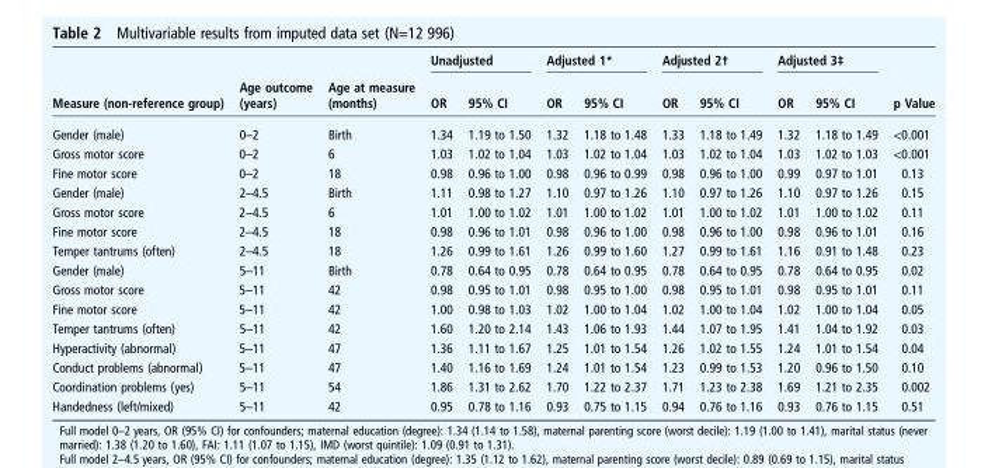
<table><thead><tr><td rowspan="2">Measure (non-reference group)</td><td rowspan="2">Age outcome (years)</td><td rowspan="2">Age at measure (months)</td><td colspan="2">Unadjusted</td><td colspan="2">Adjusted 1*</td><td colspan="2">Adjusted 2†</td><td colspan="2">Adjusted 3‡</td><td rowspan="2">p Value</td></tr><tr><td>OR</td><td>95% CI</td><td>OR</td><td>95% CI</td><td>OR</td><td>95% CI</td><td>OR</td><td>95% CI</td></tr></thead><tbody><tr><td>Gender (male)</td><td>0–2</td><td>Birth</td><td>1.34</td><td>1.19 to 1.50</td><td>1.32</td><td>1.18 to 1.48</td><td>1.33</td><td>1.18 to 1.49</td><td>1.32</td><td>1.18 to 1.49</td><td>&lt;0.001</td></tr><tr><td>Gross motor score</td><td>0–2</td><td>6</td><td>1.03</td><td>1.02 to 1.04</td><td>1.03</td><td>1.02 to 1.04</td><td>1.03</td><td>1.02 to 1.04</td><td>1.03</td><td>1.02 to 1.03</td><td>&lt;0.001</td></tr><tr><td>Fine motor score</td><td>0–2</td><td>18</td><td>0.98</td><td>0.96 to 1.00</td><td>0.98</td><td>0.96 to 0.99</td><td>0.98</td><td>0.96 to 1.00</td><td>0.99</td><td>0.97 to 1.01</td><td>0.13</td></tr><tr><td>Gender (male)</td><td>2–4.5</td><td>Birth</td><td>1.11</td><td>0.98 to 1.27</td><td>1.10</td><td>0.97 to 1.26</td><td>1.10</td><td>0.97 to 1.26</td><td>1.10</td><td>0.97 to 1.26</td><td>0.15</td></tr><tr><td>Gross motor score</td><td>2–4.5</td><td>6</td><td>1.01</td><td>1.00 to 1.02</td><td>1.01</td><td>1.00 to 1.02</td><td>1.01</td><td>1.00 to 1.02</td><td>1.01</td><td>1.00 to 1.02</td><td>0.11</td></tr><tr><td>Fine motor score</td><td>2–4.5</td><td>18</td><td>0.98</td><td>0.96 to 1.01</td><td>0.98</td><td>0.96 to 1.00</td><td>0.98</td><td>0.96 to 1.00</td><td>0.98</td><td>0.96 to 1.01</td><td>0.16</td></tr><tr><td>Temper tantrums (often)</td><td>2–4.5</td><td>18</td><td>1.26</td><td>0.99 to 1.61</td><td>1.26</td><td>0.99 to 1.60</td><td>1.27</td><td>0.99 to 1.61</td><td>1.16</td><td>0.91 to 1.48</td><td>0.23</td></tr><tr><td>Gender (male)</td><td>5–11</td><td>Birth</td><td>0.78</td><td>0.64 to 0.95</td><td>0.78</td><td>0.64 to 0.95</td><td>0.78</td><td>0.64 to 0.95</td><td>0.78</td><td>0.64 to 0.95</td><td>0.02</td></tr><tr><td>Gross motor score</td><td>5–11</td><td>42</td><td>0.98</td><td>0.95 to 1.01</td><td>0.98</td><td>0.95 to 1.00</td><td>0.98</td><td>0.95 to 1.01</td><td>0.98</td><td>0.95 to 1.01</td><td>0.11</td></tr><tr><td>Fine motor score</td><td>5–11</td><td>42</td><td>1.00</td><td>0.98 to 1.03</td><td>1.02</td><td>1.00 to 1.04</td><td>1.02</td><td>1.00 to 1.04</td><td>1.02</td><td>1.00 to 1.04</td><td>0.05</td></tr><tr><td>Temper tantrums (often)</td><td>5–11</td><td>42</td><td>1.60</td><td>1.20 to 2.14</td><td>1.43</td><td>1.06 to 1.93</td><td>1.44</td><td>1.07 to 1.95</td><td>1.41</td><td>1.04 to 1.92</td><td>0.03</td></tr><tr><td>Hyperactivity (abnormal)</td><td>5–11</td><td>47</td><td>1.36</td><td>1.11 to 1.67</td><td>1.25</td><td>1.01 to 1.54</td><td>1.26</td><td>1.02 to 1.55</td><td>1.24</td><td>1.01 to 1.54</td><td>0.04</td></tr><tr><td>Conduct problems (abnormal)</td><td>5–11</td><td>47</td><td>1.40</td><td>1.16 to 1.69</td><td>1.24</td><td>1.01 to 1.54</td><td>1.23</td><td>0.99 to 1.53</td><td>1.20</td><td>0.96 to 1.50</td><td>0.10</td></tr><tr><td>Coordination problems (yes)</td><td>5–11</td><td>54</td><td>1.86</td><td>1.31 to 2.62</td><td>1.70</td><td>1.22 to 2.37</td><td>1.71</td><td>1.23 to 2.38</td><td>1.69</td><td>1.21 to 2.35</td><td>0.002</td></tr><tr><td>Handedness (left/mixed)</td><td>5–11</td><td>42</td><td>0.95</td><td>0.78 to 1.16</td><td>0.93</td><td>0.75 to 1.15</td><td>0.94</td><td>0.76 to 1.16</td><td>0.93</td><td>0.76 to 1.15</td><td>0.51</td></tr></tbody></table>